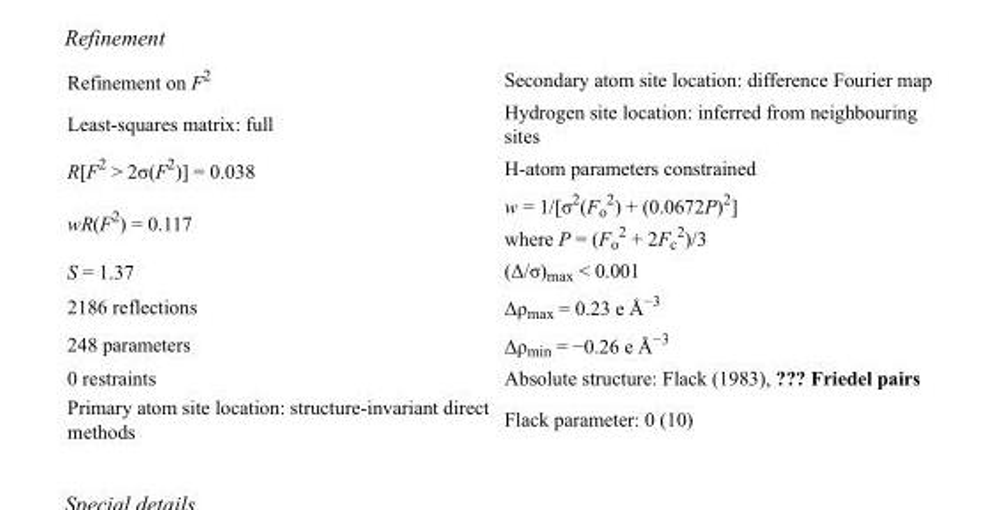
<table><tbody><tr><td>Refinement on F<sup>2</sup></td><td>Secondary atom site location: difference Fourier map</td></tr><tr><td>Least-squares matrix: full</td><td>Hydrogen site location: inferred from neighbouring sites</td></tr><tr><td>R[F<sup>2</sup> &gt; 2σ(F<sup>2</sup>)] = 0.038</td><td>H-atom parameters constrained</td></tr><tr><td>wR(F<sup>2</sup>) = 0.117</td><td>w = 1/[σ<sup>2</sup>(F<sub>o</sub> <sup>2</sup>) + (0.0672P)<sup>2</sup>] where P = (F<sub>o</sub> <sup>2</sup> + 2F<sub>c</sub> <sup>2</sup>)/3</td></tr><tr><td>S = 1.37</td><td>(Δ/σ)<sub>max</sub> &lt; 0.001</td></tr><tr><td>2186 reflections</td><td>Δρ<sub>max</sub> = 0.23 e Å<sup>−3</sup></td></tr><tr><td>248 parameters</td><td>Δρ<sub>min</sub> = −0.26 e Å<sup>−3</sup></td></tr><tr><td>0 restraints</td><td>Absolute structure: Flack (1983), ??? Friedel pairs</td></tr><tr><td>Primary atom site location: structure-invariant direct methods</td><td>Flack parameter: 0 (10)</td></tr></tbody></table>